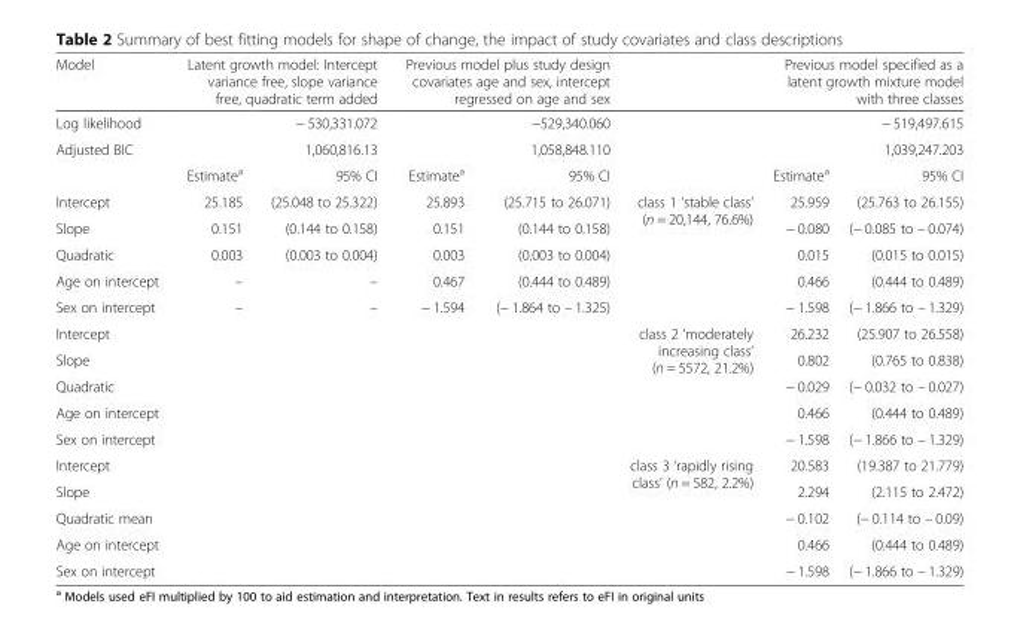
<table><thead><tr><td rowspan="4">Model Log likelihood Adjusted BIC</td><td rowspan="3" colspan="2">Latent growth model: Intercept variance free, slope variance free, quadratic term added − 530,331.072 1,060,816.13</td><td rowspan="3" colspan="2">Previous model plus study design covariates age and sex, intercept regressed on age and sex −529,340.060 1,058,848.110</td><td rowspan="4"></td><td rowspan="3" colspan="2">Previous model specified as a latent growth mixture model with three classes − 519,497.615 1,039,247.203</td></tr><tr></tr><tr></tr><tr><td>Estimate<sup>a</sup></td><td>95% CI</td><td>Estimate<sup>a</sup></td><td>95% CI</td><td>Estimate<sup>a</sup></td><td>95% CI</td></tr></thead><tbody><tr><td>Intercept</td><td>25.185</td><td>(25.048 to 25.322)</td><td>25.893</td><td>(25.715 to 26.071)</td><td rowspan="5">class 1 ‘stable class’ (n = 20,144, 76.6%)</td><td>25.959</td><td>(25.763 to 26.155)</td></tr><tr><td>Slope</td><td>0.151</td><td>(0.144 to 0.158)</td><td>0.151</td><td>(0.144 to 0.158)</td><td>− 0.080</td><td>(− 0.085 to – 0.074)</td></tr><tr><td>Quadratic</td><td>0.003</td><td>(0.003 to 0.004)</td><td>0.003</td><td>(0.003 to 0.004)</td><td>0.015</td><td>(0.015 to 0.015)</td></tr><tr><td>Age on intercept</td><td>–</td><td>–</td><td>0.467</td><td>(0.444 to 0.489)</td><td>0.466</td><td>(0.444 to 0.489)</td></tr><tr><td>Sex on intercept</td><td>–</td><td>–</td><td>− 1.594</td><td>(− 1.864 to – 1.325)</td><td>− 1.598</td><td>(− 1.866 to – 1.329)</td></tr><tr><td>Intercept</td><td></td><td></td><td></td><td></td><td rowspan="4">class 2 ‘moderately increasing class’ (n = 5572, 21.2%)</td><td>26.232</td><td>(25.907 to 26.558)</td></tr><tr><td>Slope</td><td></td><td></td><td></td><td></td><td>0.802</td><td>(0.765 to 0.838)</td></tr><tr><td>Quadratic</td><td></td><td></td><td></td><td></td><td>− 0.029</td><td>(− 0.032 to – 0.027)</td></tr><tr><td>Age on intercept</td><td></td><td></td><td></td><td></td><td>0.466</td><td>(0.444 to 0.489)</td></tr><tr><td>Sex on intercept</td><td></td><td></td><td></td><td></td><td></td><td>− 1.598</td><td>(− 1.866 to – 1.329)</td></tr><tr><td>Intercept</td><td></td><td></td><td></td><td></td><td rowspan="4">class 3 ‘rapidly rising class’ (n = 582, 2.2%)</td><td>20.583</td><td>(19.387 to 21.779)</td></tr><tr><td>Slope</td><td></td><td></td><td></td><td></td><td>2.294</td><td>(2.115 to 2.472)</td></tr><tr><td>Quadratic mean</td><td></td><td></td><td></td><td></td><td>− 0.102</td><td>(− 0.114 to – 0.09)</td></tr><tr><td>Age on intercept</td><td></td><td></td><td></td><td></td><td>0.466</td><td>(0.444 to 0.489)</td></tr><tr><td>Sex on intercept</td><td></td><td></td><td></td><td></td><td></td><td>− 1.598</td><td>(− 1.866 to – 1.329)</td></tr></tbody></table>